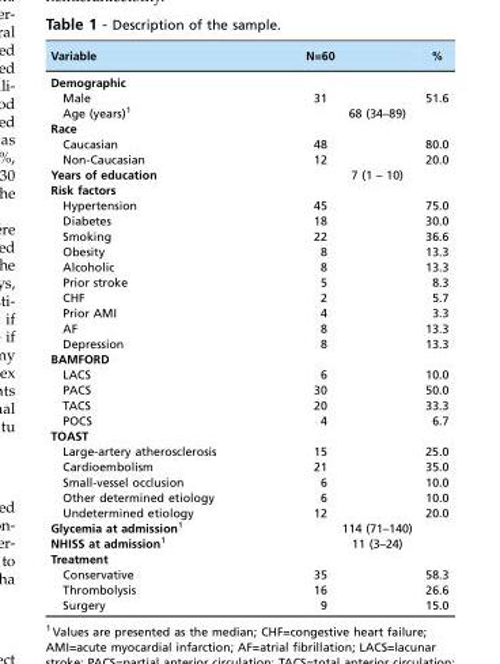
<table><thead><tr><td>Variable</td><td>N=60</td><td>%</td></tr></thead><tbody><tr><td colspan="3">Demographic</td></tr><tr><td>Male</td><td>31</td><td>51.6</td></tr><tr><td>Age (years)<sup>1</sup></td><td colspan="2">68 (34–89)</td></tr><tr><td colspan="3">Race</td></tr><tr><td>Caucasian</td><td>48</td><td>80.0</td></tr><tr><td>Non-Caucasian</td><td>12</td><td>20.0</td></tr><tr><td>Years of education</td><td colspan="2">7 (1 – 10)</td></tr><tr><td colspan="3">Risk factors</td></tr><tr><td>Hypertension</td><td>45</td><td>75.0</td></tr><tr><td>Diabetes</td><td>18</td><td>30.0</td></tr><tr><td>Smoking</td><td>22</td><td>36.6</td></tr><tr><td>Obesity</td><td>8</td><td>13.3</td></tr><tr><td>Alcoholic</td><td>8</td><td>13.3</td></tr><tr><td>Prior stroke</td><td>5</td><td>8.3</td></tr><tr><td>CHF</td><td>2</td><td>5.7</td></tr><tr><td>Prior AMI</td><td>4</td><td>3.3</td></tr><tr><td>AF</td><td>8</td><td>13.3</td></tr><tr><td>Depression</td><td>8</td><td>13.3</td></tr><tr><td colspan="3">BAMFORD</td></tr><tr><td>LACS</td><td>6</td><td>10.0</td></tr><tr><td>PACS</td><td>30</td><td>50.0</td></tr><tr><td>TACS</td><td>20</td><td>33.3</td></tr><tr><td>POCS</td><td>4</td><td>6.7</td></tr><tr><td colspan="3">TOAST</td></tr><tr><td>Large-artery atherosclerosis</td><td>15</td><td>25.0</td></tr><tr><td>Cardioembolism</td><td>21</td><td>35.0</td></tr><tr><td>Small-vessel occlusion</td><td>6</td><td>10.0</td></tr><tr><td>Other determined etiology</td><td>6</td><td>10.0</td></tr><tr><td>Undetermined etiology</td><td>12</td><td>20.0</td></tr><tr><td>Glycemia at admission<sup>1</sup></td><td colspan="2">114 (71–140)</td></tr><tr><td>NHISS at admission<sup>1</sup></td><td colspan="2">11 (3–24)</td></tr><tr><td colspan="3">Treatment</td></tr><tr><td>Conservative</td><td>35</td><td>58.3</td></tr><tr><td>Thrombolysis</td><td>16</td><td>26.6</td></tr><tr><td>Surgery</td><td>9</td><td>15.0</td></tr></tbody></table>